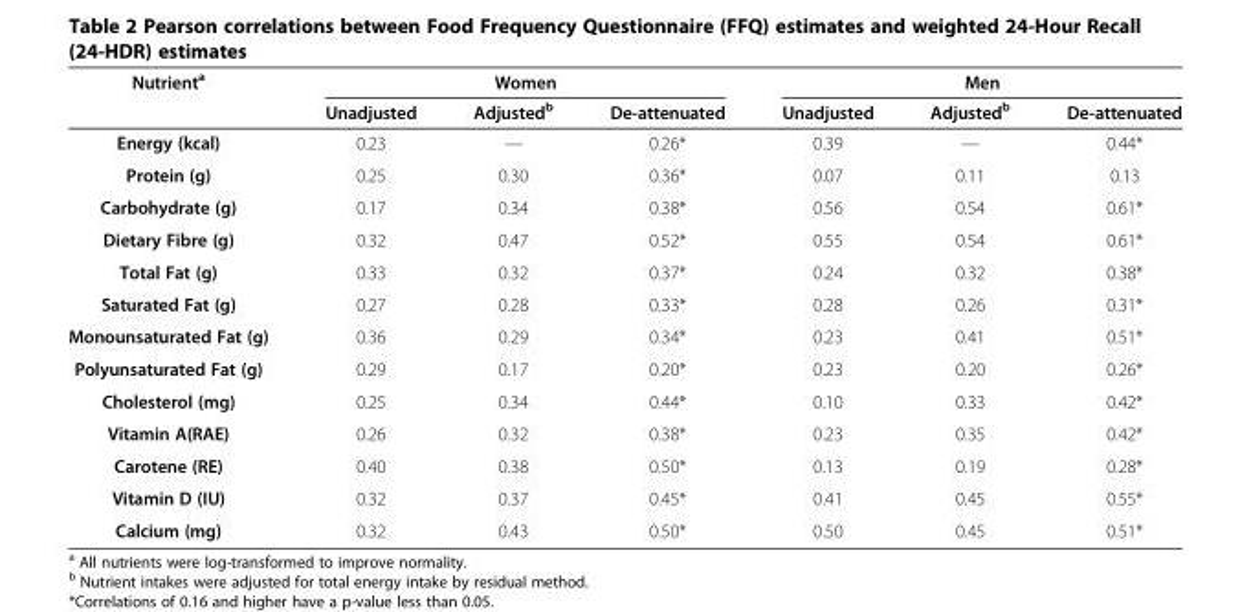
<table><thead><tr><td rowspan="2">Nutrient<sup>a</sup></td><td colspan="3">Women</td><td colspan="3">Men</td></tr><tr><td>Unadjusted</td><td>Adjusted<sup>b</sup></td><td>De-attenuated</td><td>Unadjusted</td><td>Adjusted<sup>b</sup></td><td>De-attenuated</td></tr></thead><tbody><tr><td>Energy (kcal)</td><td>0.23</td><td>—</td><td>0.26*</td><td>0.39</td><td>—</td><td>0.44*</td></tr><tr><td>Protein (g)</td><td>0.25</td><td>0.30</td><td>0.36*</td><td>0.07</td><td>0.11</td><td>0.13</td></tr><tr><td>Carbohydrate (g)</td><td>0.17</td><td>0.34</td><td>0.38*</td><td>0.56</td><td>0.54</td><td>0.61*</td></tr><tr><td>Dietary Fibre (g)</td><td>0.32</td><td>0.47</td><td>0.52*</td><td>0.55</td><td>0.54</td><td>0.61*</td></tr><tr><td>Total Fat (g)</td><td>0.33</td><td>0.32</td><td>0.37*</td><td>0.24</td><td>0.32</td><td>0.38*</td></tr><tr><td>Saturated Fat (g)</td><td>0.27</td><td>0.28</td><td>0.33*</td><td>0.28</td><td>0.26</td><td>0.31*</td></tr><tr><td>Monounsaturated Fat (g)</td><td>0.36</td><td>0.29</td><td>0.34*</td><td>0.23</td><td>0.41</td><td>0.51*</td></tr><tr><td>Polyunsaturated Fat (g)</td><td>0.29</td><td>0.17</td><td>0.20*</td><td>0.23</td><td>0.20</td><td>0.26*</td></tr><tr><td>Cholesterol (mg)</td><td>0.25</td><td>0.34</td><td>0.44*</td><td>0.10</td><td>0.33</td><td>0.42*</td></tr><tr><td>Vitamin A(RAE)</td><td>0.26</td><td>0.32</td><td>0.38*</td><td>0.23</td><td>0.35</td><td>0.42*</td></tr><tr><td>Carotene (RE)</td><td>0.40</td><td>0.38</td><td>0.50*</td><td>0.13</td><td>0.19</td><td>0.28*</td></tr><tr><td>Vitamin D (IU)</td><td>0.32</td><td>0.37</td><td>0.45*</td><td>0.41</td><td>0.45</td><td>0.55*</td></tr><tr><td>Calcium (mg)</td><td>0.32</td><td>0.43</td><td>0.50*</td><td>0.50</td><td>0.45</td><td>0.51*</td></tr></tbody></table>